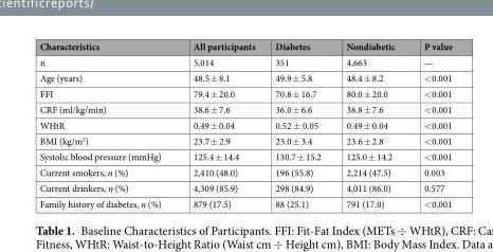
<table><thead><tr><td>Characteristics</td><td>All participants</td><td>Diabetes</td><td>Nondiabetic</td><td>P value</td></tr></thead><tbody><tr><td>n</td><td>5,014</td><td>351</td><td>4,663</td><td>—</td></tr><tr><td>Age (years)</td><td>48.5 ± 8.1</td><td>49.9 ± 5.8</td><td>48.4 ± 8.2</td><td>&lt;0.001</td></tr><tr><td>FFI</td><td>79.4 ± 20.0</td><td>70.8 ± 16.7</td><td>80.0 ± 20.0</td><td>&lt;0.001</td></tr><tr><td>CRF (ml/kg/min)</td><td>38.6 ± 7.6</td><td>36.0 ± 6.6</td><td>38.8 ± 7.6</td><td>&lt;0.001</td></tr><tr><td>WHtR</td><td>0.49 ± 0.04</td><td>0.52 ± 0.05</td><td>0.49 ± 0.04</td><td>&lt;0.001</td></tr><tr><td>BMI (kg/m<sup>2</sup>)</td><td>23.7 ± 2.9</td><td>25.0 ± 3.4</td><td>23.6 ± 2.8</td><td>&lt;0.001</td></tr><tr><td>Systolic blood pressure (mmHg)</td><td>125.4 ± 14.4</td><td>130.7 ± 15.2</td><td>125.0 ± 14.2</td><td>&lt;0.001</td></tr><tr><td>Current smokers, n (%)</td><td>2,410 (48.0)</td><td>196 (55.8)</td><td>2,214 (47.5)</td><td>0.003</td></tr><tr><td>Current drinkers, n (%)</td><td>4,309 (85.9)</td><td>298 (84.9)</td><td>4,011 (86.0)</td><td>0.577</td></tr><tr><td>Family history of diabetes, n (%)</td><td>879 (17.5)</td><td>88 (25.1)</td><td>791 (17.0)</td><td>&lt;0.001</td></tr></tbody></table>